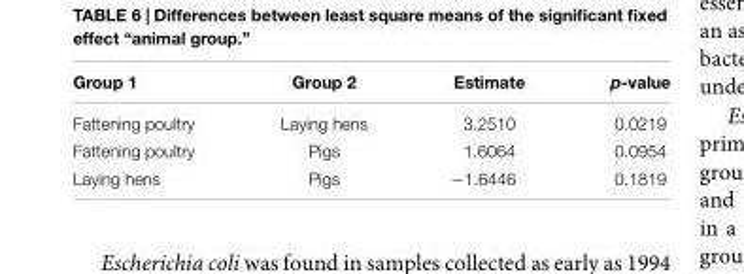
<table><thead><tr><td>Group 1</td><td>Group 2</td><td>Estimate</td><td>p-value</td></tr></thead><tbody><tr><td>Fattening poultry</td><td>Laying hens</td><td>3.2510</td><td>0.0219</td></tr><tr><td>Fattening poultry</td><td>Pigs</td><td>1.6064</td><td>0.0954</td></tr><tr><td>Laying hens</td><td>Pigs</td><td>−1.6446</td><td>0.1819</td></tr></tbody></table>